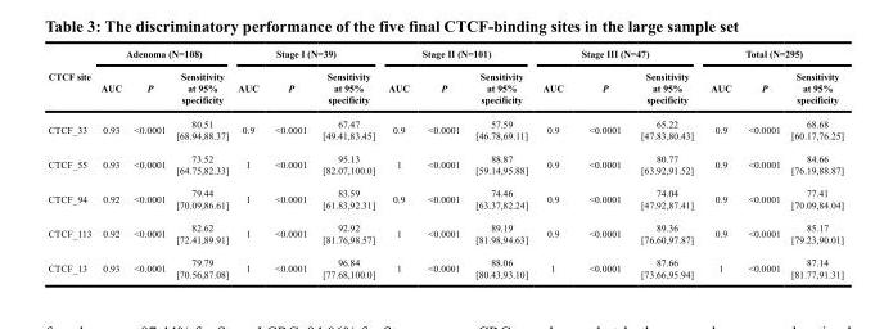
<table><thead><tr><td rowspan="2">CTCF site</td><td colspan="3">Adenoma (N=108)</td><td colspan="3">Stage I (N=39)</td><td colspan="3">Stage II (N=101)</td><td colspan="3">Stage III (N=47)</td><td colspan="3">Total (N=295)</td></tr><tr><td>AUC</td><td>P</td><td>Sensitivity at 95% specificity</td><td>AUC</td><td>P</td><td>Sensitivity at 95% specificity</td><td>AUC</td><td>P</td><td>Sensitivity at 95% specificity</td><td>AUC</td><td>P</td><td>Sensitivity at 95% specificity</td><td>AUC</td><td>P</td><td>Sensitivity at 95% specificity</td></tr></thead><tbody><tr><td>CTCF_33</td><td>0.93</td><td>&lt;0.0001</td><td>80.51 [68.94,88.37]</td><td>0.9</td><td>&lt;0.0001</td><td>67.47 [49.41,83.45]</td><td>0.9</td><td>&lt;0.0001</td><td>57.59 [46.78,69.11]</td><td>0.9</td><td>&lt;0.0001</td><td>65.22 [47.83,80.43]</td><td>0.9</td><td>&lt;0.0001</td><td>68.68 [60.17,76.25]</td></tr><tr><td>CTCF_55</td><td>0.93</td><td>&lt;0.0001</td><td>73.52 [64.75,82.33]</td><td>1</td><td>&lt;0.0001</td><td>95.13 [82.07,100.0]</td><td>1</td><td>&lt;0.0001</td><td>88.87 [59.14,95.88]</td><td>0.9</td><td>&lt;0.0001</td><td>80.77 [63.92,91.52]</td><td>0.9</td><td>&lt;0.0001</td><td>84.66 [76.19,88.87]</td></tr><tr><td>CTCF_94</td><td>0.92</td><td>&lt;0.0001</td><td>79.44 [70.09,86.61]</td><td>1</td><td>&lt;0.0001</td><td>83.59 [61.83,92.31]</td><td>0.9</td><td>&lt;0.0001</td><td>74.46 [63.37,82.24]</td><td>0.9</td><td>&lt;0.0001</td><td>74.04 [47.92,87.41]</td><td>0.9</td><td>&lt;0.0001</td><td>77.41 [70.09,84.04]</td></tr><tr><td>CTCF_113</td><td>0.92</td><td>&lt;0.0001</td><td>82.62 [72.41,89.91]</td><td>1</td><td>&lt;0.0001</td><td>92.92 [81.76,98.57]</td><td>1</td><td>&lt;0.0001</td><td>89.19 [81.98,94.63]</td><td>0.9</td><td>&lt;0.0001</td><td>89.36 [76.60,97.87]</td><td>0.9</td><td>&lt;0.0001</td><td>85.17 [79.23,90.01]</td></tr><tr><td>CTCF_13</td><td>0.93</td><td>&lt;0.0001</td><td>79.79 [70.56,87.08]</td><td>1</td><td>&lt;0.0001</td><td>96.84 [77.68,100.0]</td><td>1</td><td>&lt;0.0001</td><td>88.06 [80.43,93.10]</td><td>1</td><td>&lt;0.0001</td><td>87.66 [73.66,95.94]</td><td>1</td><td>&lt;0.0001</td><td>87.14 [81.77,91.31]</td></tr></tbody></table>